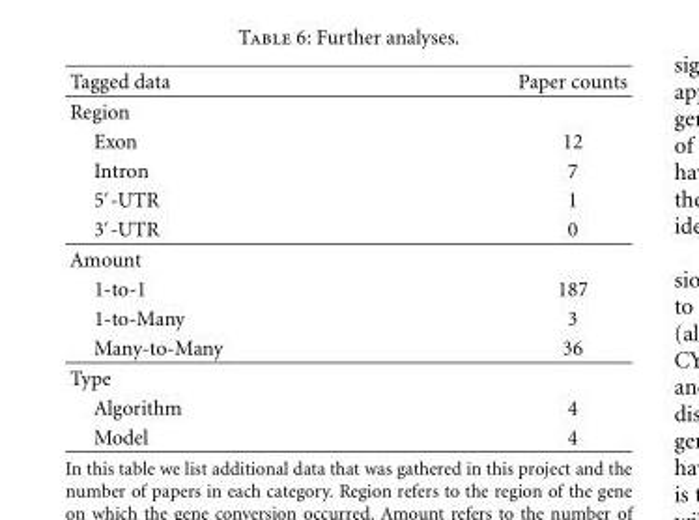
<table><thead><tr><td>Tagged data</td><td>Paper counts</td></tr></thead><tbody><tr><td colspan="2">Region</td></tr><tr><td>Exon</td><td>12</td></tr><tr><td>Intron</td><td>7</td></tr><tr><td>5′-UTR</td><td>1</td></tr><tr><td>3′-UTR</td><td>0</td></tr><tr><td colspan="2">Amount</td></tr><tr><td>1-to-1</td><td>187</td></tr><tr><td>1-to-Many</td><td>3</td></tr><tr><td>Many-to-Many</td><td>36</td></tr><tr><td colspan="2">Type</td></tr><tr><td>Algorithm</td><td>4</td></tr><tr><td>Model</td><td>4</td></tr></tbody></table>